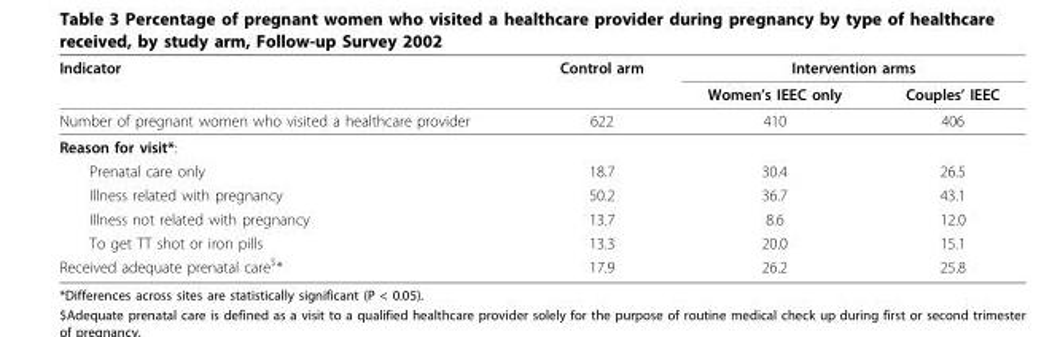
<table><thead><tr><td rowspan="2">Indicator</td><td rowspan="2">Control arm</td><td colspan="2">Intervention arms</td></tr><tr><td>Women’s IEEC only</td><td>Couples’ IEEC</td></tr></thead><tbody><tr><td>Number of pregnant women who visited a healthcare provider</td><td>622</td><td>410</td><td>406</td></tr><tr><td colspan="4">Reason for visit*:</td></tr><tr><td>Prenatal care only</td><td>18.7</td><td>30.4</td><td>26.5</td></tr><tr><td>Illness related with pregnancy</td><td>50.2</td><td>36.7</td><td>43.1</td></tr><tr><td>Illness not related with pregnancy</td><td>13.7</td><td>8.6</td><td>12.0</td></tr><tr><td>To get TT shot or iron pills</td><td>13.3</td><td>20.0</td><td>15.1</td></tr><tr><td>Received adequate prenatal care<sup>$</sup>*</td><td>17.9</td><td>26.2</td><td>25.8</td></tr></tbody></table>